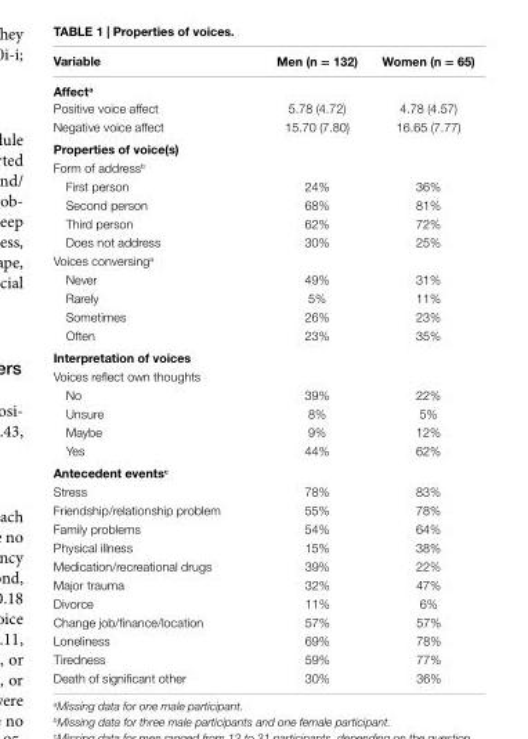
<table><thead><tr><td>Variable</td><td>Men (n = 132)</td><td>Women (n = 65)</td></tr></thead><tbody><tr><td colspan="3">affect<sup>a</sup></td></tr><tr><td>Positive voice affect</td><td>5.78 (4.72)</td><td>4.78 (4.57)</td></tr><tr><td>Negative voice affect</td><td>15.70 (7.80)</td><td>16.65 (7.77)</td></tr><tr><td colspan="3">Properties of voice(s)</td></tr><tr><td colspan="3">Form of address<sup>b</sup></td></tr><tr><td>First person</td><td>24%</td><td>36%</td></tr><tr><td>Second person</td><td>68%</td><td>81%</td></tr><tr><td>Third person</td><td>62%</td><td>72%</td></tr><tr><td>Does not address</td><td>30%</td><td>25%</td></tr><tr><td colspan="3">Voices conversing<sup>a</sup></td></tr><tr><td>Never</td><td>49%</td><td>31%</td></tr><tr><td>Rarely</td><td>5%</td><td>11%</td></tr><tr><td>Sometimes</td><td>26%</td><td>23%</td></tr><tr><td>Often</td><td>23%</td><td>35%</td></tr><tr><td colspan="3">interpretation of voices</td></tr><tr><td colspan="3">Voices reflect own thoughts</td></tr><tr><td>No</td><td>39%</td><td>22%</td></tr><tr><td>Unsure</td><td>8%</td><td>5%</td></tr><tr><td>Maybe</td><td>9%</td><td>12%</td></tr><tr><td>Yes</td><td>44%</td><td>62%</td></tr><tr><td colspan="3">antecedent events<sup>c</sup></td></tr><tr><td>Stress</td><td>78%</td><td>83%</td></tr><tr><td>Friendship/relationship problem</td><td>55%</td><td>78%</td></tr><tr><td>Family problems</td><td>54%</td><td>64%</td></tr><tr><td>Physical illness</td><td>15%</td><td>38%</td></tr><tr><td>Medication/recreational drugs</td><td>39%</td><td>22%</td></tr><tr><td>Major trauma</td><td>32%</td><td>47%</td></tr><tr><td>Divorce</td><td>11%</td><td>6%</td></tr><tr><td>Change job/finance/location</td><td>57%</td><td>57%</td></tr><tr><td>Loneliness</td><td>69%</td><td>78%</td></tr><tr><td>Tiredness</td><td>59%</td><td>77%</td></tr><tr><td>Death of significant other</td><td>30%</td><td>36%</td></tr></tbody></table>